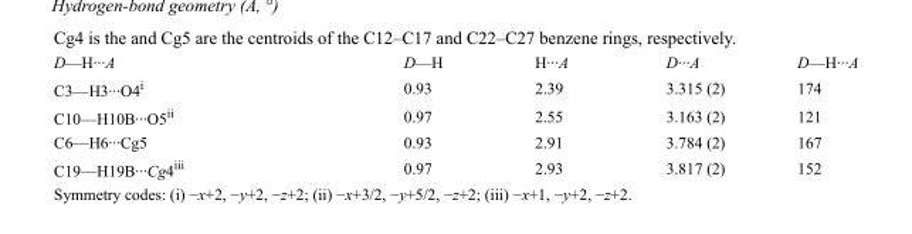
<table><tbody><tr><td>D—H···A</td><td>D—H</td><td>H···A</td><td>D···A</td><td>D—H···A</td></tr><tr><td>C3—H3···O4<sup>i</sup></td><td>0.93</td><td>2.39</td><td>3.315 (2)</td><td>174</td></tr><tr><td>C10—H10B···O5<sup>ii</sup></td><td>0.97</td><td>2.55</td><td>3.163 (2)</td><td>121</td></tr><tr><td>C6—H6···Cg5</td><td>0.93</td><td>2.91</td><td>3.784 (2)</td><td>167</td></tr><tr><td>C19—H19B···Cg4<sup>iii</sup></td><td>0.97</td><td>2.93</td><td>3.817 (2)</td><td>152</td></tr></tbody></table>